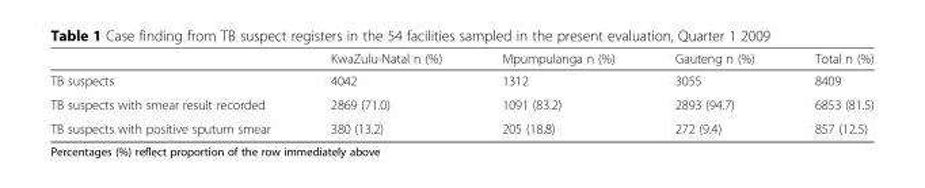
<table><thead><tr><td></td><td>KwaZulu-Natal n (%)</td><td>Mpumpulanga n (%)</td><td>Gauteng n (%)</td><td>Total n (%)</td></tr></thead><tbody><tr><td>TB suspects</td><td>4042</td><td>1312</td><td>3055</td><td>8409</td></tr><tr><td>TB suspects with smear result recorded</td><td>2869 (71.0)</td><td>1091 (83.2)</td><td>2893 (94.7)</td><td>6853 (81.5)</td></tr><tr><td>TB suspects with positive sputum smear</td><td>380 (13.2)</td><td>205 (18.8)</td><td>272 (9.4)</td><td>857 (12.5)</td></tr></tbody></table>